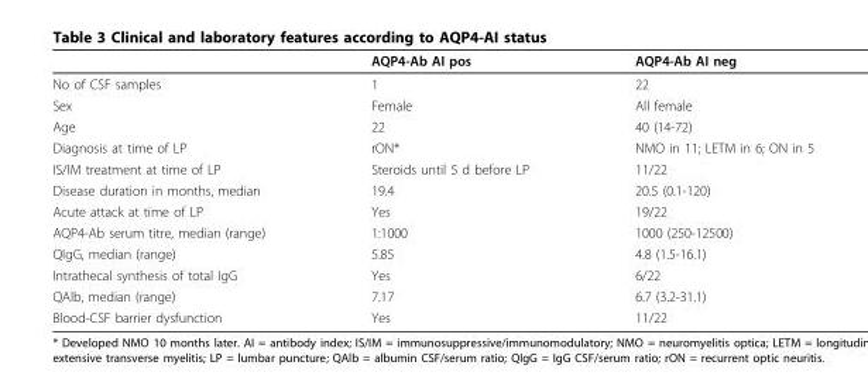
<table><thead><tr><td></td><td>AQP4-Ab AI pos</td><td>AQP4-Ab AI neg</td></tr></thead><tbody><tr><td>No of CSF samples</td><td>1</td><td>22</td></tr><tr><td>Sex</td><td>Female</td><td>All female</td></tr><tr><td>Age</td><td>22</td><td>40 (14-72)</td></tr><tr><td>Diagnosis at time of LP</td><td>rON*</td><td>NMO in 11; LETM in 6; ON in 5</td></tr><tr><td>IS/IM treatment at time of LP</td><td>Steroids until 5 d before LP</td><td>11/22</td></tr><tr><td>Disease duration in months, median</td><td>19.4</td><td>20.5 (0.1-120)</td></tr><tr><td>Acute attack at time of LP</td><td>Yes</td><td>19/22</td></tr><tr><td>AQP4-Ab serum titre, median (range)</td><td>1:1000</td><td>1000 (250-12500)</td></tr><tr><td>QIgG, median (range)</td><td>5.85</td><td>4.8 (1.5-16.1)</td></tr><tr><td>Intrathecal synthesis of total IgG</td><td>Yes</td><td>6/22</td></tr><tr><td>QAlb, median (range)</td><td>7.17</td><td>6.7 (3.2-31.1)</td></tr><tr><td>Blood-CSF barrier dysfunction</td><td>Yes</td><td>11/22</td></tr></tbody></table>